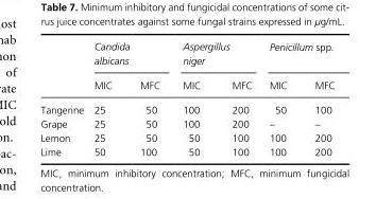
<table><thead><tr><td rowspan="2"></td><td colspan="2">Candida albicans</td><td colspan="2">Aspergillus niger</td><td colspan="2">Penicillum spp.</td></tr><tr><td>MIC</td><td>MFC</td><td>MIC</td><td>MFC</td><td>MIC</td><td>MFC</td></tr></thead><tbody><tr><td>Tangerine</td><td>25</td><td>50</td><td>100</td><td>200</td><td>50</td><td>100</td></tr><tr><td>Grape</td><td>25</td><td>50</td><td>100</td><td>200</td><td>–</td><td>–</td></tr><tr><td>Lemon</td><td>25</td><td>50</td><td>50</td><td>100</td><td>100</td><td>200</td></tr><tr><td>Lime</td><td>50</td><td>100</td><td>50</td><td>100</td><td>100</td><td>200</td></tr></tbody></table>